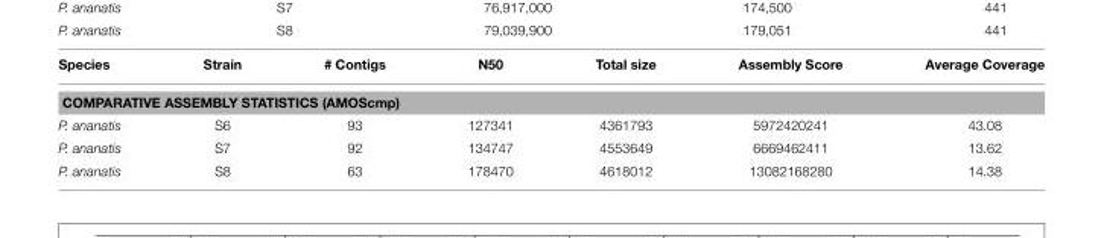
<table><thead><tr><td>Species</td><td>Strain</td><td># Contigs</td><td>N50</td><td>Total size</td><td>Assembly Score</td><td>Average Coverage</td></tr></thead><tbody><tr><td colspan="7">COMPARATIVE ASSEMBLY STATISTICS (AMOScmp)</td></tr><tr><td>P. ananatis</td><td>S6</td><td>93</td><td>127341</td><td>4361793</td><td>5972420241</td><td>43.08</td></tr><tr><td>P. ananatis</td><td>S7</td><td>92</td><td>134747</td><td>4553649</td><td>6669462411</td><td>13.62</td></tr><tr><td>P. ananatis</td><td>S8</td><td>63</td><td>178470</td><td>4618012</td><td>13082168280</td><td>14.38</td></tr></tbody></table>